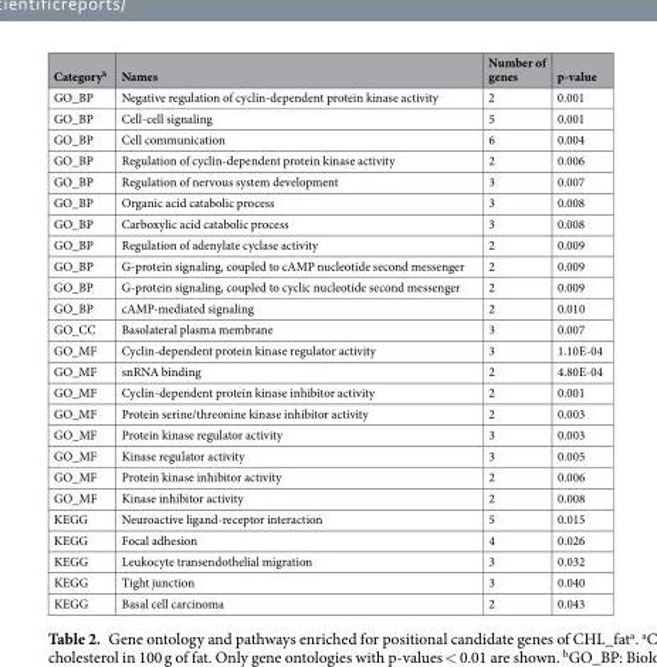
<table><thead><tr><td>Category<sup>b</sup></td><td>Names</td><td>Number of genes</td><td>p-value</td></tr></thead><tbody><tr><td>GO_BP</td><td>Negative regulation of cyclin-dependent protein kinase activity</td><td>2</td><td>0.001</td></tr><tr><td>GO_BP</td><td>Cell-cell signaling</td><td>5</td><td>0.001</td></tr><tr><td>GO_BP</td><td>Cell communication</td><td>6</td><td>0.004</td></tr><tr><td>GO_BP</td><td>Regulation of cyclin-dependent protein kinase activity</td><td>2</td><td>0.006</td></tr><tr><td>GO_BP</td><td>Regulation of nervous system development</td><td>3</td><td>0.007</td></tr><tr><td>GO_BP</td><td>Organic acid catabolic process</td><td>3</td><td>0.008</td></tr><tr><td>GO_BP</td><td>Carboxylic acid catabolic process</td><td>3</td><td>0.008</td></tr><tr><td>GO_BP</td><td>Regulation of adenylate cyclase activity</td><td>2</td><td>0.009</td></tr><tr><td>GO_BP</td><td>G-protein signaling, coupled to cAMP nucleotide second messenger</td><td>2</td><td>0.009</td></tr><tr><td>GO_BP</td><td>G-protein signaling, coupled to cyclic nucleotide second messenger</td><td>2</td><td>0.009</td></tr><tr><td>GO_BP</td><td>cAMP-mediated signaling</td><td>2</td><td>0.010</td></tr><tr><td>GO_CC</td><td>Basolateral plasma membrane</td><td>3</td><td>0.007</td></tr><tr><td>GO_MF</td><td>Cyclin-dependent protein kinase regulator activity</td><td>3</td><td>1.10E-04</td></tr><tr><td>GO_MF</td><td>snRNA binding</td><td>2</td><td>4.80E-04</td></tr><tr><td>GO_MF</td><td>Cyclin-dependent protein kinase inhibitor activity</td><td>2</td><td>0.001</td></tr><tr><td>GO_MF</td><td>Protein serine/threonine kinase inhibitor activity</td><td>2</td><td>0.003</td></tr><tr><td>GO_MF</td><td>Protein kinase regulator activity</td><td>3</td><td>0.003</td></tr><tr><td>GO_MF</td><td>Kinase regulator activity</td><td>3</td><td>0.005</td></tr><tr><td>GO_MF</td><td>Protein kinase inhibitor activity</td><td>2</td><td>0.006</td></tr><tr><td>GO_MF</td><td>Kinase inhibitor activity</td><td>2</td><td>0.008</td></tr><tr><td>KEGG</td><td>Neuroactive ligand-receptor interaction</td><td>5</td><td>0.015</td></tr><tr><td>KEGG</td><td>Focal adhesion</td><td>4</td><td>0.026</td></tr><tr><td>KEGG</td><td>Leukocyte transendothelial migration</td><td>3</td><td>0.032</td></tr><tr><td>KEGG</td><td>Tight junction</td><td>3</td><td>0.040</td></tr><tr><td>KEGG</td><td>Basal cell carcinoma</td><td>2</td><td>0.043</td></tr></tbody></table>